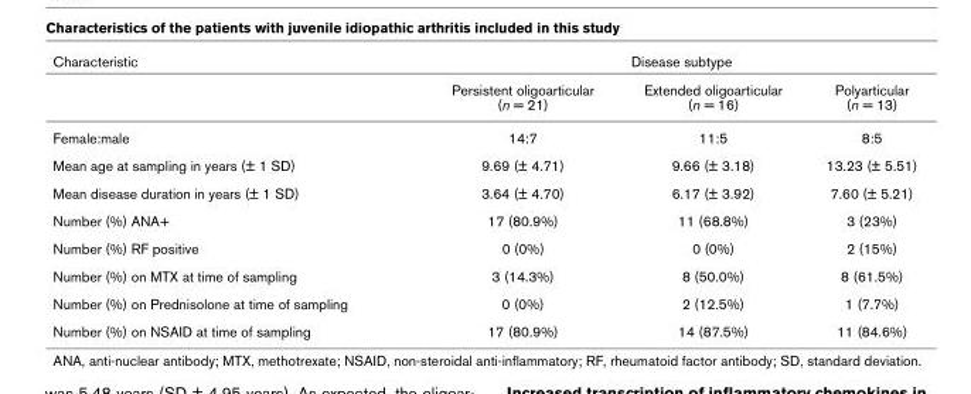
<table><thead><tr><td rowspan="2">Characteristic</td><td colspan="3">Disease subtype</td></tr><tr><td>Persistent oligoarticular (n = 21)</td><td>Extended oligoarticular (n = 16)</td><td>Polyarticular (n = 13)</td></tr></thead><tbody><tr><td>Female:male</td><td>14:7</td><td>11:5</td><td>8:5</td></tr><tr><td>Mean age at sampling in years (± 1 SD)</td><td>9.69 (± 4.71)</td><td>9.66 (± 3.18)</td><td>13.23 (± 5.51)</td></tr><tr><td>Mean disease duration in years (± 1 SD)</td><td>3.64 (± 4.70)</td><td>6.17 (± 3.92)</td><td>7.60 (± 5.21)</td></tr><tr><td>Number (%) ANA+</td><td>17 (80.9%)</td><td>11 (68.8%)</td><td>3 (23%)</td></tr><tr><td>Number (%) RF positive</td><td>0 (0%)</td><td>0 (0%)</td><td>2 (15%)</td></tr><tr><td>Number (%) on MTX at time of sampling</td><td>3 (14.3%)</td><td>8 (50.0%)</td><td>8 (61.5%)</td></tr><tr><td>Number (%) on Prednisolone at time of sampling</td><td>0 (0%)</td><td>2 (12.5%)</td><td>1 (7.7%)</td></tr><tr><td>Number (%) on NSAID at time of sampling</td><td>17 (80.9%)</td><td>14 (87.5%)</td><td>11 (84.6%)</td></tr></tbody></table>